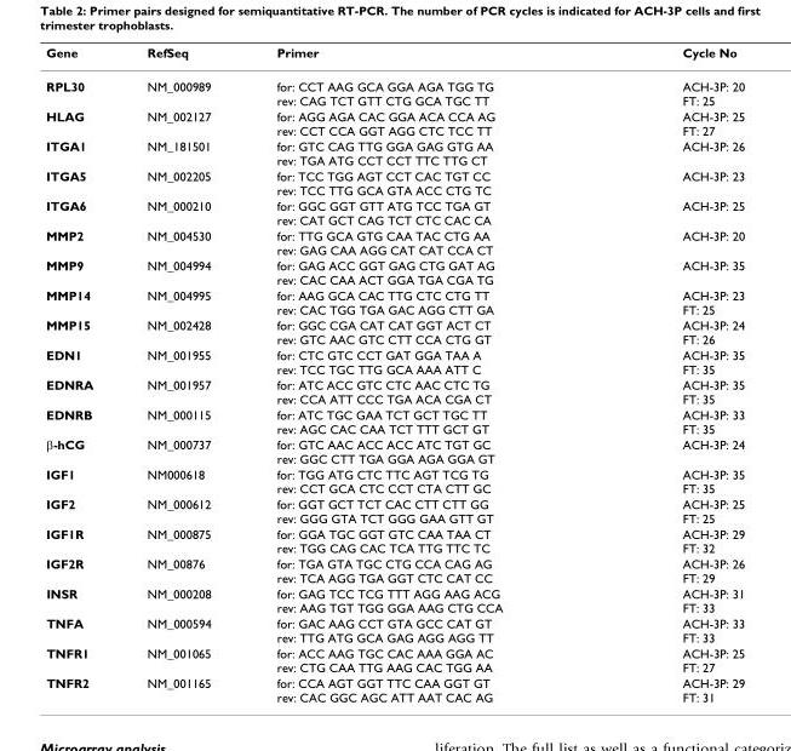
<table><thead><tr><td>Gene</td><td>RefSeq</td><td>Primer</td><td>Cycle No</td></tr></thead><tbody><tr><td>RPL30</td><td>NM_000989</td><td>for: CCT AAG GCA GGA AGA TGG TG rev: CAG TCT GTT CTG GCA TGC TT</td><td>ACH-3P: 20 FT: 25</td></tr><tr><td>HLAG</td><td>NM_002127</td><td>for: AGG AGA CAC GGA ACA CCA AG rev: CCT CCA GGT AGG CTC TCC TT</td><td>ACH-3P: 25 FT: 27</td></tr><tr><td>ITGA1</td><td>NM_181501</td><td>for: GTC CAG TTG GGA GAG GTG AA rev: TGA ATG CCT CCT TTC TTG CT</td><td>ACH-3P: 26</td></tr><tr><td>ITGA5</td><td>NM_002205</td><td>for: TCC TGG AGT CCT CAC TGT CC rev: TCC TTG GCA GTA ACC CTG TC</td><td>ACH-3P: 23</td></tr><tr><td>ITGA6</td><td>NM_000210</td><td>for: GGC GGT GTT ATG TCC TGA GT rev: CAT GCT CAG TCT CTC CAC CA</td><td>ACH-3P: 25</td></tr><tr><td>MMP2</td><td>NM_004530</td><td>for: TTG GCA GTG CAA TAC CTG AA rev: GAG CAA AGG CAT CAT CCA CT</td><td>ACH-3P: 20</td></tr><tr><td>MMP9</td><td>NM_004994</td><td>for: GAG ACC GGT GAG CTG GAT AG rev: CAC CAA ACT GGA TGA CGA TG</td><td>ACH-3P: 35</td></tr><tr><td>MMP14</td><td>NM_004995</td><td>for: AAG GCA CAC TTG CTC CTG TT rev: CAC TGG TGA GAC AGG CTT GA</td><td>ACH-3P: 23 FT: 25</td></tr><tr><td>MMP15</td><td>NM_002428</td><td>for: GGC CGA CAT CAT GGT ACT CT rev: GTC AAC GTC CTT CCA CTG GT</td><td>ACH-3P: 24 FT: 26</td></tr><tr><td>EDN1</td><td>NM_001955</td><td>for: CTC GTC CCT GAT GGA TAA A rev: TCC TGC TTG GCA AAA ATT C</td><td>ACH-3P: 35 FT: 35</td></tr><tr><td>EDNRA</td><td>NM_001957</td><td>for: ATC ACC GTC CTC AAC CTC TG rev: CCA ATT CCC TGA ACA CGA CT</td><td>ACH-3P: 35 FT: 35</td></tr><tr><td>EDNRB</td><td>NM_000115</td><td>for: ATC TGC GAA TCT GCT TGC TT rev: AGC CAC CAA TCT TTT GCT GT</td><td>ACH-3P: 33 FT: 35</td></tr><tr><td>β-hCG</td><td>NM_000737</td><td>for: GTC AAC ACC ACC ATC TGT GC rev: GGC CTT TGA GGA AGA GGA GT</td><td>ACH-3P: 24</td></tr><tr><td>IGF1</td><td>NM000618</td><td>for: TGG ATG CTC TTC AGT TCG TG rev: CCT GCA CTC CCT CTA CTT GC</td><td>ACH-3P: 35 FT: 35</td></tr><tr><td>IGF2</td><td>NM_000612</td><td>for: GGT GCT TCT CAC CTT CTT GG rev: GGG GTA TCT GGG GAA GTT GT</td><td>ACH-3P: 25 FT: 25</td></tr><tr><td>IGF1R</td><td>NM_000875</td><td>for: GGA TGC GGT GTC CAA TAA CT rev: TGG CAG CAC TCA TTG TTC TC</td><td>ACH-3P: 29 FT: 32</td></tr><tr><td>IGF2R</td><td>NM_00876</td><td>for: TGA GTA TGC CTG CCA CAG AG rev: TCA AGG TGA GGT CTC CAT CC</td><td>ACH-3P: 26 FT: 29</td></tr><tr><td>INSR</td><td>NM_000208</td><td>for: GAG TCC TCG TTT AGG AAG ACG rev: AAG TGT TGG GGA AAG CTG CCA</td><td>ACH-3P: 31 FT: 33</td></tr><tr><td>TNFA</td><td>NM_000594</td><td>for: GAC AAG CCT GTA GCC CAT GT rev: TTG ATG GCA GAG AGG AGG TT</td><td>ACH-3P: 33 FT: 33</td></tr><tr><td>TNFR1</td><td>NM_001065</td><td>for: ACC AAG TGC CAC AAA GGA AC rev: CTG CAA TTG AAG CAC TGG AA</td><td>ACH-3P: 25 FT: 27</td></tr><tr><td>TNFR2</td><td>NM_001165</td><td>for: CCA AGT GGT TTC CAA GGT GT rev: CAC GGC AGC ATT AAT CAC AG</td><td>ACH-3P: 29 FT: 31</td></tr></tbody></table>